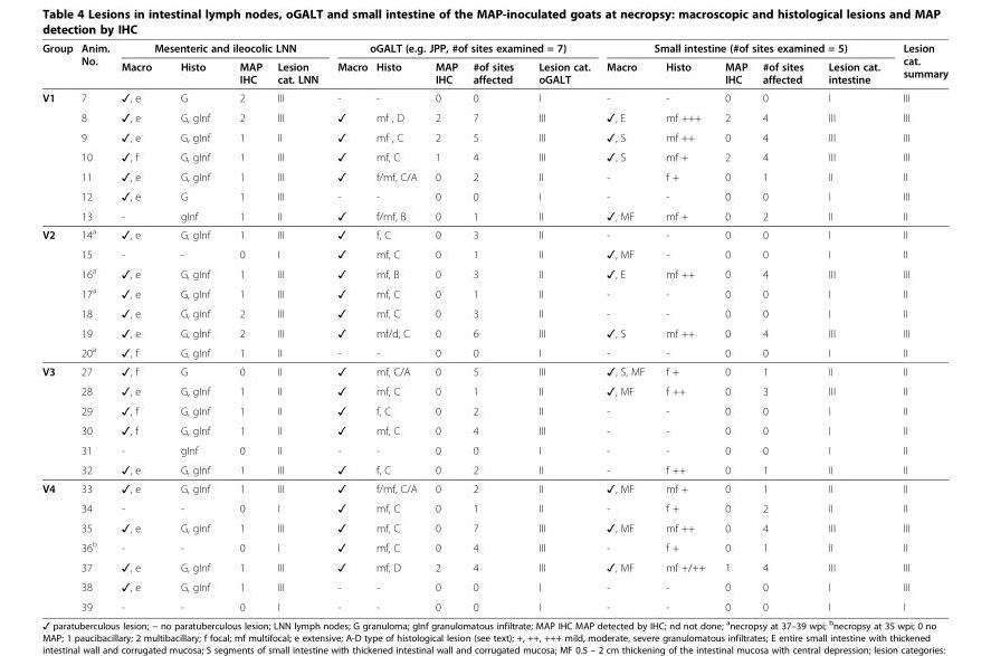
<table><thead><tr><td rowspan="2">Group</td><td rowspan="2">Anim. No.</td><td colspan="4">Mesenteric and ileocolic LNN</td><td colspan="5">oGALT (e.g. JPP, #of sites examined = 7)</td><td colspan="5">Small intestine (#of sites examined = 5)</td><td rowspan="2">Lesion cat. summary</td></tr><tr><td>Macro</td><td>Histo</td><td>MAP IHC</td><td>Lesion cat. LNN</td><td>Macro</td><td>Histo</td><td>MAP IHC</td><td>#of sites affected</td><td>Lesion cat. oGALT</td><td>Macro</td><td>Histo</td><td>MAP IHC</td><td>#of sites affected</td><td>Lesion cat. intestine</td></tr></thead><tbody><tr><td rowspan="7">V1</td><td>7</td><td>✓, e</td><td>G</td><td>2</td><td>III</td><td>-</td><td>-</td><td>0</td><td>0</td><td>I</td><td>-</td><td>-</td><td>0</td><td>0</td><td>I</td><td>III</td></tr><tr><td>8</td><td>✓, e</td><td>G, gInf</td><td>2</td><td>III</td><td>✓</td><td>mf , D</td><td>2</td><td>7</td><td>III</td><td>✓, E</td><td>mf +++</td><td>2</td><td>4</td><td>III</td><td>III</td></tr><tr><td>9</td><td>✓, e</td><td>G, gInf</td><td>1</td><td>II</td><td>✓</td><td>mf , C</td><td>2</td><td>5</td><td>III</td><td>✓, S</td><td>mf ++</td><td>0</td><td>4</td><td>III</td><td>III</td></tr><tr><td>10</td><td>✓, f</td><td>G, gInf</td><td>1</td><td>III</td><td>✓</td><td>mf, C</td><td>1</td><td>4</td><td>III</td><td>✓, S</td><td>mf +</td><td>2</td><td>4</td><td>III</td><td>III</td></tr><tr><td>11</td><td>✓, e</td><td>G, gInf</td><td>1</td><td>III</td><td>✓</td><td>f/mf, C/A</td><td>0</td><td>2</td><td>II</td><td>-</td><td>f +</td><td>0</td><td>1</td><td>II</td><td>II</td></tr><tr><td>12</td><td>✓, e</td><td>G</td><td>1</td><td>III</td><td>-</td><td>-</td><td>0</td><td>0</td><td>I</td><td>-</td><td>-</td><td>0</td><td>0</td><td>I</td><td>III</td></tr><tr><td>13</td><td>-</td><td>gInf</td><td>1</td><td>II</td><td>✓</td><td>f/mf, B</td><td>0</td><td>1</td><td>II</td><td>✓, MF</td><td>mf +</td><td>0</td><td>2</td><td>II</td><td>II</td></tr><tr><td rowspan="7">V2</td><td>14<sup>a</sup></td><td>✓, e</td><td>G, gInf</td><td>1</td><td>III</td><td>✓</td><td>f, C</td><td>0</td><td>3</td><td>II</td><td>-</td><td>-</td><td>0</td><td>0</td><td>I</td><td>II</td></tr><tr><td>15</td><td>-</td><td>-</td><td>0</td><td>I</td><td>✓</td><td>mf, C</td><td>0</td><td>1</td><td>II</td><td>✓, MF</td><td>-</td><td>0</td><td>0</td><td>I</td><td>II</td></tr><tr><td>16<sup>a</sup></td><td>✓, e</td><td>G, gInf</td><td>1</td><td>III</td><td>✓</td><td>mf, B</td><td>0</td><td>3</td><td>II</td><td>✓, E</td><td>mf ++</td><td>0</td><td>4</td><td>III</td><td>III</td></tr><tr><td>17<sup>a</sup></td><td>✓, e</td><td>G, gInf</td><td>1</td><td>III</td><td>✓</td><td>mf, C</td><td>0</td><td>1</td><td>II</td><td>-</td><td>-</td><td>0</td><td>0</td><td>I</td><td>II</td></tr><tr><td>18</td><td>✓, e</td><td>G, gInf</td><td>2</td><td>III</td><td>✓</td><td>mf, C</td><td>0</td><td>3</td><td>II</td><td>-</td><td>-</td><td>0</td><td>0</td><td>I</td><td>II</td></tr><tr><td>19</td><td>✓, e</td><td>G, gInf</td><td>2</td><td>III</td><td>✓</td><td>mf/d, C</td><td>0</td><td>6</td><td>III</td><td>✓, S</td><td>mf ++</td><td>0</td><td>4</td><td>III</td><td>III</td></tr><tr><td>20<sup>a</sup></td><td>✓, f</td><td>G, gInf</td><td>1</td><td>II</td><td>-</td><td>-</td><td>0</td><td>0</td><td>I</td><td>-</td><td>-</td><td>0</td><td>0</td><td>I</td><td>II</td></tr><tr><td rowspan="6">V3</td><td>27</td><td>✓, f</td><td>G</td><td>0</td><td>II</td><td>✓</td><td>mf, C/A</td><td>0</td><td>5</td><td>III</td><td>✓, S, MF</td><td>f +</td><td>0</td><td>1</td><td>II</td><td>II</td></tr><tr><td>28</td><td>✓, e</td><td>G, gInf</td><td>1</td><td>II</td><td>✓</td><td>mf, C</td><td>0</td><td>1</td><td>II</td><td>✓, MF</td><td>f ++</td><td>0</td><td>3</td><td>III</td><td>II</td></tr><tr><td>29</td><td>✓, f</td><td>G, gInf</td><td>1</td><td>II</td><td>✓</td><td>f, C</td><td>0</td><td>2</td><td>II</td><td>-</td><td>-</td><td>0</td><td>0</td><td>I</td><td>II</td></tr><tr><td>30</td><td>✓, f</td><td>G, gInf</td><td>1</td><td>II</td><td>✓</td><td>mf, C</td><td>0</td><td>4</td><td>III</td><td>-</td><td>-</td><td>0</td><td>0</td><td>I</td><td>II</td></tr><tr><td>31</td><td>-</td><td>gInf</td><td>0</td><td>II</td><td>-</td><td>-</td><td>0</td><td>0</td><td>I</td><td>-</td><td>-</td><td>0</td><td>0</td><td>I</td><td>II</td></tr><tr><td>32</td><td>✓, e</td><td>G, gInf</td><td>1</td><td>III</td><td>✓</td><td>f, C</td><td>0</td><td>2</td><td>II</td><td>-</td><td>f ++</td><td>0</td><td>1</td><td>II</td><td>II</td></tr><tr><td rowspan="7">V4</td><td>33</td><td>✓, e</td><td>G, gInf</td><td>1</td><td>III</td><td>✓</td><td>f/mf, C/A</td><td>0</td><td>2</td><td>II</td><td>✓, MF</td><td>mf +</td><td>0</td><td>1</td><td>II</td><td>II</td></tr><tr><td>34</td><td>-</td><td>-</td><td>0</td><td>I</td><td>✓</td><td>mf, C</td><td>0</td><td>1</td><td>II</td><td>-</td><td>f +</td><td>0</td><td>2</td><td>II</td><td>II</td></tr><tr><td>35</td><td>✓, e</td><td>G, gInf</td><td>1</td><td>III</td><td>✓</td><td>mf, C</td><td>0</td><td>7</td><td>III</td><td>✓, MF</td><td>mf ++</td><td>0</td><td>4</td><td>III</td><td>III</td></tr><tr><td>36<sup>b</sup></td><td>-</td><td>-</td><td>0</td><td>I</td><td>✓</td><td>mf, C</td><td>0</td><td>4</td><td>III</td><td>-</td><td>f +</td><td>0</td><td>1</td><td>II</td><td>II</td></tr><tr><td>37</td><td>✓, e</td><td>G, gInf</td><td>1</td><td>III</td><td>✓</td><td>mf, D</td><td>2</td><td>4</td><td>III</td><td>✓, MF</td><td>mf +/++</td><td>1</td><td>4</td><td>III</td><td>III</td></tr><tr><td>38</td><td>✓, e</td><td>G, gInf</td><td>1</td><td>III</td><td>-</td><td>-</td><td>0</td><td>0</td><td>I</td><td>-</td><td>-</td><td>0</td><td>0</td><td>I</td><td>III</td></tr><tr><td>39</td><td>-</td><td>-</td><td>0</td><td>I</td><td>-</td><td>-</td><td>0</td><td>0</td><td>I</td><td>-</td><td>-</td><td>0</td><td>0</td><td>I</td><td>I</td></tr></tbody></table>